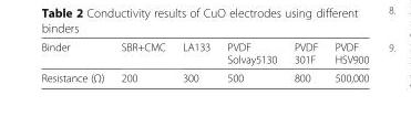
<table><thead><tr><td>Binder</td><td>SBR+CMC</td><td>LA133</td><td>PVDF Solvay5130</td><td>PVDF 301F</td><td>PVDF HSV900</td></tr></thead><tbody><tr><td>Resistance (Ω)</td><td>200</td><td>300</td><td>500</td><td>800</td><td>500,000</td></tr></tbody></table>